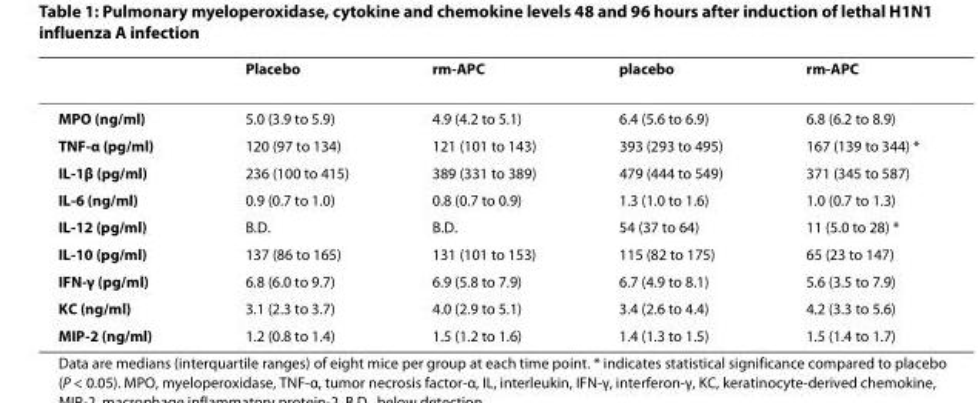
<table><thead><tr><td></td><td>Placebo</td><td>rm-APC</td><td>placebo</td><td>rm-APC</td></tr></thead><tbody><tr><td>MPO (ng/ml)</td><td>5.0 (3.9 to 5.9)</td><td>4.9 (4.2 to 5.1)</td><td>6.4 (5.6 to 6.9)</td><td>6.8 (6.2 to 8.9)</td></tr><tr><td>TNF-α (pg/ml)</td><td>120 (97 to 134)</td><td>121 (101 to 143)</td><td>393 (293 to 495)</td><td>167 (139 to 344) *</td></tr><tr><td>IL-1β (pg/ml)</td><td>236 (100 to 415)</td><td>389 (331 to 389)</td><td>479 (444 to 549)</td><td>371 (345 to 587)</td></tr><tr><td>IL-6 (ng/ml)</td><td>0.9 (0.7 to 1.0)</td><td>0.8 (0.7 to 0.9)</td><td>1.3 (1.0 to 1.6)</td><td>1.0 (0.7 to 1.3)</td></tr><tr><td>IL-12 (pg/ml)</td><td>B.D.</td><td>B.D.</td><td>54 (37 to 64)</td><td>11 (5.0 to 28) *</td></tr><tr><td>IL-10 (pg/ml)</td><td>137 (86 to 165)</td><td>131 (101 to 153)</td><td>115 (82 to 175)</td><td>65 (23 to 147)</td></tr><tr><td>IFN-γ (pg/ml)</td><td>6.8 (6.0 to 9.7)</td><td>6.9 (5.8 to 7.9)</td><td>6.7 (4.9 to 8.1)</td><td>5.6 (3.5 to 7.9)</td></tr><tr><td>KC (ng/ml)</td><td>3.1 (2.3 to 3.7)</td><td>4.0 (2.9 to 5.1)</td><td>3.4 (2.6 to 4.4)</td><td>4.2 (3.3 to 5.6)</td></tr><tr><td>MIP-2 (ng/ml)</td><td>1.2 (0.8 to 1.4)</td><td>1.5 (1.2 to 1.6)</td><td>1.4 (1.3 to 1.5)</td><td>1.5 (1.4 to 1.7)</td></tr></tbody></table>